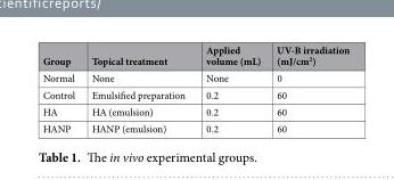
<table><thead><tr><td>Group</td><td>Topical treatment</td><td>Applied volume (mL)</td><td>UV-B irradiation (mJ/cm<sup>2</sup>)</td></tr></thead><tbody><tr><td>Normal</td><td>None</td><td>None</td><td>0</td></tr><tr><td>Control</td><td>Emulsified preparation</td><td>0.2</td><td>60</td></tr><tr><td>HA</td><td>HA (emulsion)</td><td>0.2</td><td>60</td></tr><tr><td>HANP</td><td>HANP (emulsion)</td><td>0.2</td><td>60</td></tr></tbody></table>